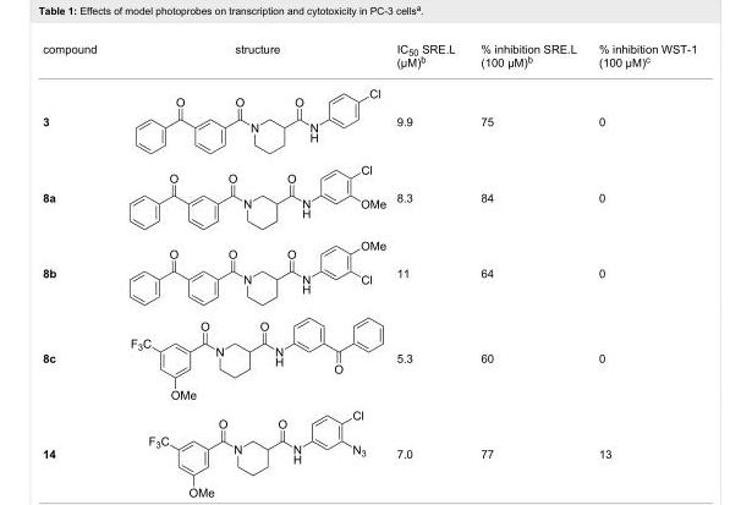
<table><tbody><tr><td>compound</td><td>structure</td><td>IC<sub>50</sub> SRE.L (µM)<sup>b</sup></td><td>% inhibition SRE.L (100 µM)<sup>b</sup></td><td>% inhibition WST-1 (100 µM)<sup>c</sup></td></tr><tr><td>3</td><td></td><td>9.9</td><td>75</td><td>0</td></tr><tr><td>8a</td><td></td><td>8.3</td><td>84</td><td>0</td></tr><tr><td>8b</td><td></td><td>11</td><td>64</td><td>0</td></tr><tr><td>8c</td><td></td><td>5.3</td><td>60</td><td>0</td></tr><tr><td>14</td><td></td><td>7.0</td><td>77</td><td>13</td></tr></tbody></table>